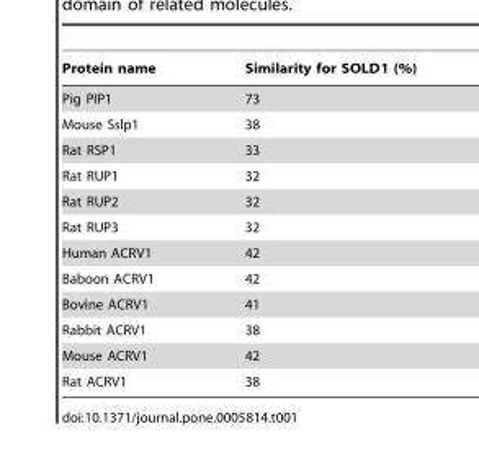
<table><thead><tr><td>Protein name</td><td>Similarity for SOLD1 (%)</td></tr></thead><tbody><tr><td>Pig PIP1</td><td>73</td></tr><tr><td>Mouse Sslp1</td><td>38</td></tr><tr><td>Rat RSP1</td><td>33</td></tr><tr><td>Rat RUP1</td><td>32</td></tr><tr><td>Rat RUP2</td><td>32</td></tr><tr><td>Rat RUP3</td><td>32</td></tr><tr><td>Human ACRV1</td><td>42</td></tr><tr><td>Baboon ACRV1</td><td>42</td></tr><tr><td>Bovine ACRV1</td><td>41</td></tr><tr><td>Rabbit ACRV1</td><td>38</td></tr><tr><td>Mouse ACRV1</td><td>42</td></tr><tr><td>Rat ACRV1</td><td>38</td></tr></tbody></table>